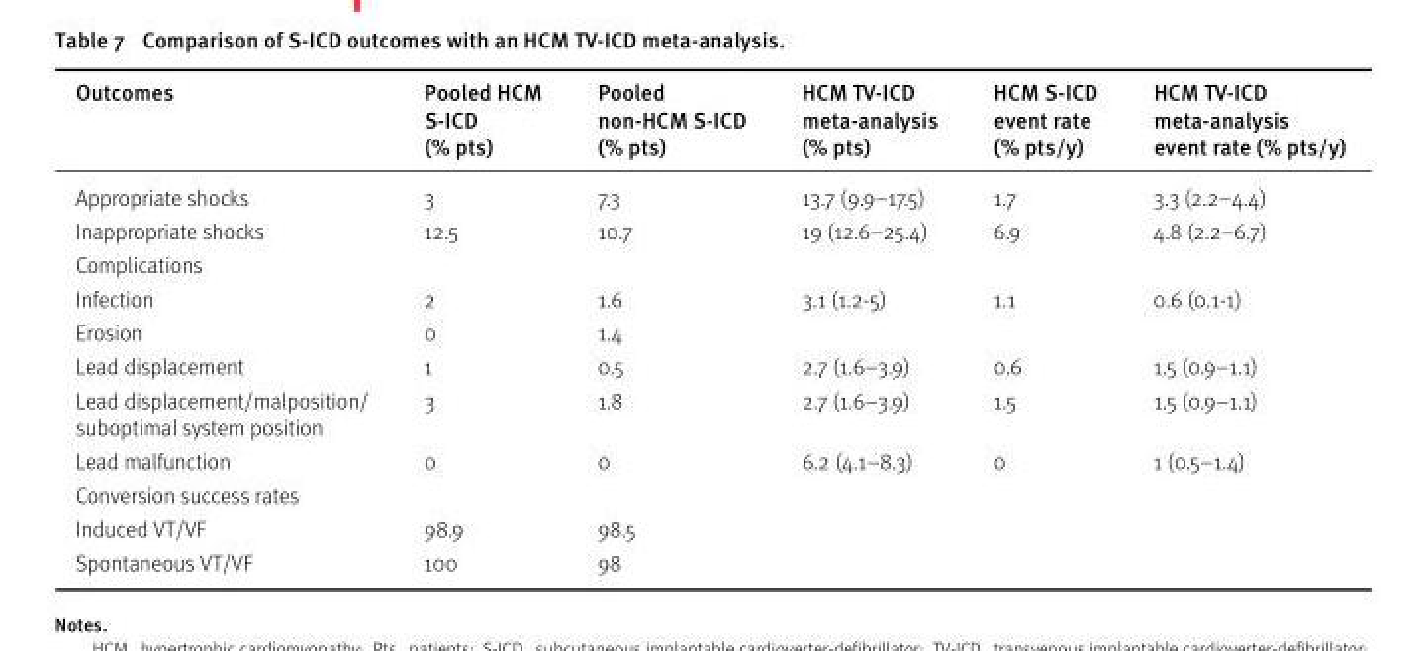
<table><thead><tr><td>Outcomes</td><td>Pooled HCM S-ICD (% pts)</td><td>Pooled non-HCM S-ICD (% pts)</td><td>HCM TV-ICD meta-analysis (% pts)</td><td>HCM S-ICD event rate (% pts/y)</td><td>HCM TV-ICD meta-analysis event rate (% pts/y)</td></tr></thead><tbody><tr><td>Appropriate shocks</td><td>3</td><td>7.3</td><td>13.7 (9.9–17.5)</td><td>1.7</td><td>3.3 (2.2–4.4)</td></tr><tr><td>Inappropriate shocks</td><td>12.5</td><td>10.7</td><td>19 (12.6–25.4)</td><td>6.9</td><td>4.8 (2.2–6.7)</td></tr><tr><td colspan="6">Complications</td></tr><tr><td>Infection</td><td>2</td><td>1.6</td><td>3.1 (1.2-5)</td><td>1.1</td><td>0.6 (0.1-1)</td></tr><tr><td>Erosion</td><td>0</td><td>1.4</td><td></td><td></td><td></td></tr><tr><td>Lead displacement</td><td>1</td><td>0.5</td><td>2.7 (1.6–3.9)</td><td>0.6</td><td>1.5 (0.9–1.1)</td></tr><tr><td>Lead displacement/malposition/ suboptimal system position</td><td>3</td><td>1.8</td><td>2.7 (1.6–3.9)</td><td>1.5</td><td>1.5 (0.9–1.1)</td></tr><tr><td>Lead malfunction</td><td>0</td><td>0</td><td>6.2 (4.1–8.3)</td><td>0</td><td>1 (0.5–1.4)</td></tr><tr><td colspan="6">Conversion success rates</td></tr><tr><td>Induced VT/VF</td><td>98.9</td><td>98.5</td><td></td><td></td><td></td></tr><tr><td>Spontaneous VT/VF</td><td>100</td><td>98</td><td></td><td></td><td></td></tr></tbody></table>